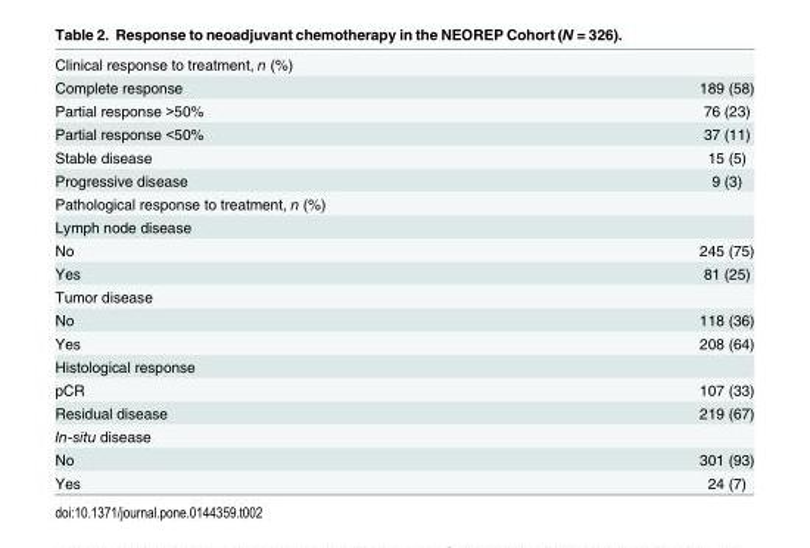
<table><tbody><tr><td colspan="2">Clinical response to treatment, n (%)</td></tr><tr><td>Complete response</td><td>189 (58)</td></tr><tr><td>Partial response &gt;50%</td><td>76 (23)</td></tr><tr><td>Partial response &lt;50%</td><td>37 (11)</td></tr><tr><td>Stable disease</td><td>15 (5)</td></tr><tr><td>Progressive disease</td><td>9 (3)</td></tr><tr><td colspan="2">Pathological response to treatment, n (%)</td></tr><tr><td colspan="2">Lymph node disease</td></tr><tr><td>No</td><td>245 (75)</td></tr><tr><td>Yes</td><td>81 (25)</td></tr><tr><td colspan="2">Tumor disease</td></tr><tr><td>No</td><td>118 (36)</td></tr><tr><td>Yes</td><td>208 (64)</td></tr><tr><td colspan="2">Histological response</td></tr><tr><td>pCR</td><td>107 (33)</td></tr><tr><td>Residual disease</td><td>219 (67)</td></tr><tr><td colspan="2">In-situ disease</td></tr><tr><td>No</td><td>301 (93)</td></tr><tr><td>Yes</td><td>24 (7)</td></tr></tbody></table>